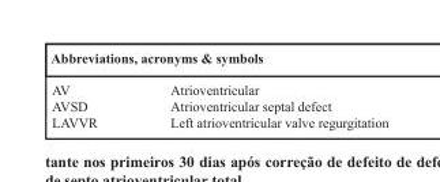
<table><thead><tr><td colspan="2">Abbreviations, acronyms &amp; symbols</td></tr><tr><td>AV</td><td>Atrioventricular</td></tr></thead><tbody><tr><td>AVSD</td><td>Atrioventricular septal defect</td></tr><tr><td>LAVVR</td><td>Left atrioventricular valve regurgitation</td></tr></tbody></table>